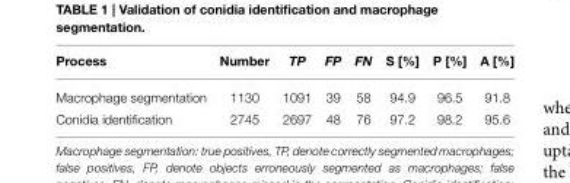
<table><thead><tr><td>Process</td><td>Number</td><td>TP</td><td>FP</td><td>FN</td><td>S [%]</td><td>P [%]</td><td>A [%]</td></tr></thead><tbody><tr><td>Macrophage segmentation</td><td>1130</td><td>1091</td><td>39</td><td>58</td><td>94.9</td><td>96.5</td><td>91.8</td></tr><tr><td>Conidia identification</td><td>2745</td><td>2697</td><td>48</td><td>76</td><td>97.2</td><td>98.2</td><td>95.6</td></tr></tbody></table>